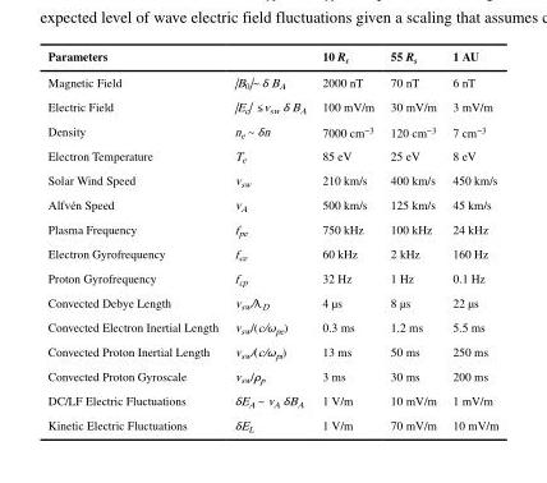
<table><thead><tr><td>Parameters</td><td></td><td>10 R<sub>s</sub></td><td>55 R<sub>s</sub></td><td>1 AU</td></tr></thead><tbody><tr><td>Magnetic Field</td><td>|B<sub>0</sub>|~ δ B<sub>A</sub></td><td>2000 nT</td><td>70 nT</td><td>6 nT</td></tr><tr><td>Electric Field</td><td>|E<sub>c</sub>| ≤ v<sub>sw</sub> δ B<sub>A</sub></td><td>100 mV/m</td><td>30 mV/m</td><td>3 mV/m</td></tr><tr><td>Density</td><td>n<sub>e</sub> ~ δn</td><td>7000 cm<sup>−3</sup></td><td>120 cm<sup>−3</sup></td><td>7 cm<sup>−3</sup></td></tr><tr><td>Electron Temperature</td><td>T<sub>e</sub></td><td>85 eV</td><td>25 eV</td><td>8 eV</td></tr><tr><td>Solar Wind Speed</td><td>v<sub>sw</sub></td><td>210 km/s</td><td>400 km/s</td><td>450 km/s</td></tr><tr><td>Alfvén Speed</td><td>v<sub>A</sub></td><td>500 km/s</td><td>125 km/s</td><td>45 km/s</td></tr><tr><td>Plasma Frequency</td><td>f<sub>pe</sub></td><td>750 kHz</td><td>100 kHz</td><td>24 kHz</td></tr><tr><td>Electron Gyrofrequency</td><td>f<sub>ce</sub></td><td>60 kHz</td><td>2 kHz</td><td>160 Hz</td></tr><tr><td>Proton Gyrofrequency</td><td>f<sub>cp</sub></td><td>32 Hz</td><td>1 Hz</td><td>0.1 Hz</td></tr><tr><td>Convected Debye Length</td><td>v<sub>sw</sub>/λ<sub>D</sub></td><td>4 μs</td><td>8 μs</td><td>22 μs</td></tr><tr><td>Convected Electron Inertial Length</td><td>v<sub>sw</sub>/(c/ω<sub>pe</sub>)</td><td>0.3 ms</td><td>1.2 ms</td><td>5.5 ms</td></tr><tr><td>Convected Proton Inertial Length</td><td>v<sub>sw</sub>/(c/ω<sub>pi</sub>)</td><td>13 ms</td><td>50 ms</td><td>250 ms</td></tr><tr><td>Convected Proton Gyroscale</td><td>v<sub>sw</sub>/ρ<sub>p</sub></td><td>3 ms</td><td>30 ms</td><td>200 ms</td></tr><tr><td>DC/LF Electric Fluctuations</td><td>δE<sub>A</sub> ~ v<sub>A</sub> δB<sub>A</sub></td><td>1 V/m</td><td>10 mV/m</td><td>1 mV/m</td></tr><tr><td>Kinetic Electric Fluctuations</td><td>δE<sub>L</sub></td><td>1 V/m</td><td>70 mV/m</td><td>10 mV/m</td></tr></tbody></table>